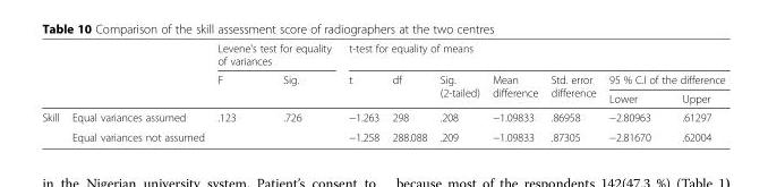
<table><thead><tr><td rowspan="3"></td><td rowspan="3"></td><td colspan="2">Levene&#x27;s test for equality of variances</td><td colspan="7">t-test for equality of means</td></tr><tr><td rowspan="2">F</td><td rowspan="2">Sig.</td><td rowspan="2">t</td><td rowspan="2">df</td><td rowspan="2">Sig. (2-tailed)</td><td rowspan="2">Mean difference</td><td rowspan="2">Std. error difference</td><td colspan="2">95 % C.I of the difference</td></tr><tr><td>Lower</td><td>Upper</td></tr></thead><tbody><tr><td rowspan="2">Skill</td><td>Equal variances assumed</td><td>.123</td><td>.726</td><td>−1.263</td><td>298</td><td>.208</td><td>−1.09833</td><td>.86958</td><td>−2.80963</td><td>.61297</td></tr><tr><td>Equal variances not assumed</td><td></td><td></td><td>−1.258</td><td>288.088</td><td>.209</td><td>−1.09833</td><td>.87305</td><td>−2.81670</td><td>.62004</td></tr></tbody></table>